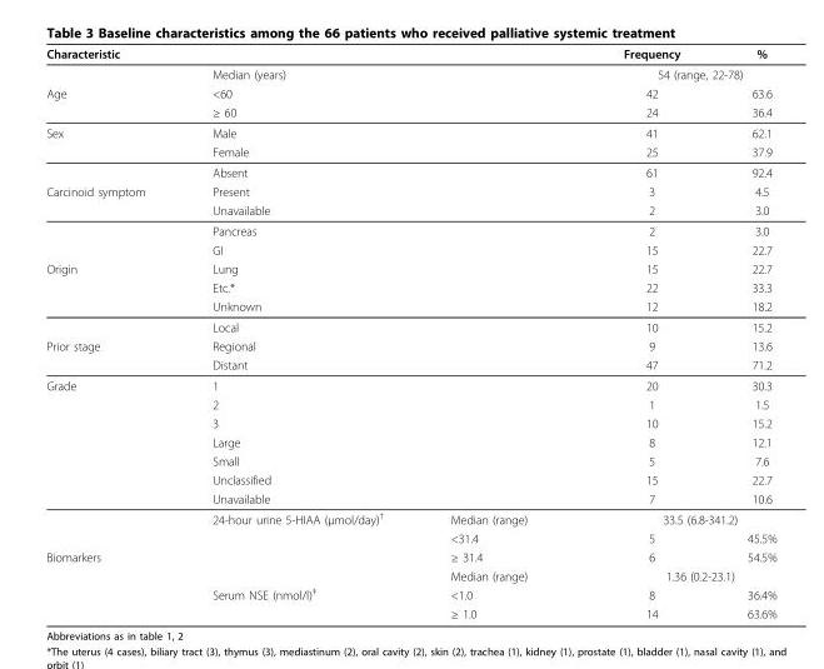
<table><thead><tr><td colspan="3">Characteristic</td><td>Frequency</td><td>%</td></tr></thead><tbody><tr><td></td><td colspan="2">Median (years)</td><td colspan="2">54 (range, 22-78)</td></tr><tr><td rowspan="2">Age</td><td colspan="2">&lt;60</td><td>42</td><td>63.6</td></tr><tr><td colspan="2">≥ 60</td><td>24</td><td>36.4</td></tr><tr><td rowspan="3">Sex</td><td colspan="2">Male</td><td>41</td><td>62.1</td></tr><tr><td colspan="2">Female</td><td>25</td><td>37.9</td></tr><tr><td colspan="2">Absent</td><td>61</td><td>92.4</td></tr><tr><td rowspan="4">Carcinoid symptom</td><td colspan="2">Present</td><td>3</td><td>4.5</td></tr><tr><td colspan="2">Unavailable</td><td>2</td><td>3.0</td></tr><tr><td colspan="2">Pancreas</td><td>2</td><td>3.0</td></tr><tr><td colspan="2">GI</td><td>15</td><td>22.7</td></tr><tr><td rowspan="4">Origin</td><td colspan="2">Lung</td><td>15</td><td>22.7</td></tr><tr><td colspan="2">Etc.*</td><td>22</td><td>33.3</td></tr><tr><td colspan="2">Unknown</td><td>12</td><td>18.2</td></tr><tr><td colspan="2">Local</td><td>10</td><td>15.2</td></tr><tr><td rowspan="2">Prior stage</td><td colspan="2">Regional</td><td>9</td><td>13.6</td></tr><tr><td colspan="2">Distant</td><td>47</td><td>71.2</td></tr><tr><td rowspan="9">Grade</td><td colspan="2">1</td><td>20</td><td>30.3</td></tr><tr><td colspan="2">2</td><td>1</td><td>1.5</td></tr><tr><td colspan="2">3</td><td>10</td><td>15.2</td></tr><tr><td colspan="2">Large</td><td>8</td><td>12.1</td></tr><tr><td colspan="2">Small</td><td>5</td><td>7.6</td></tr><tr><td colspan="2">Unclassified</td><td>15</td><td>22.7</td></tr><tr><td colspan="2">Unavailable</td><td>7</td><td>10.6</td></tr><tr><td>24-hour urine 5-HIAA (μmol/day)<sup>†</sup></td><td>Median (range)</td><td colspan="2">33.5 (6.8-341.2)</td></tr><tr><td></td><td>&lt;31.4</td><td>5</td><td>45.5%</td></tr><tr><td rowspan="4">Biomarkers</td><td></td><td>≥ 31.4</td><td>6</td><td>54.5%</td></tr><tr><td></td><td>Median (range)</td><td colspan="2">1.36 (0.2-23.1)</td></tr><tr><td>Serum NSE (nmol/l)<sup>‡</sup></td><td>&lt;1.0</td><td>8</td><td>36.4%</td></tr><tr><td></td><td>≥ 1.0</td><td>14</td><td>63.6%</td></tr></tbody></table>